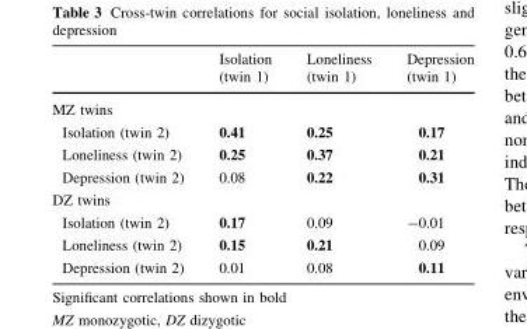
<table><thead><tr><td></td><td>Isolation (twin 1)</td><td>Loneliness (twin 1)</td><td>Depression (twin 1)</td></tr></thead><tbody><tr><td colspan="4">MZ twins</td></tr><tr><td>Isolation (twin 2)</td><td>0.41</td><td>0.25</td><td>0.17</td></tr><tr><td>Loneliness (twin 2)</td><td>0.25</td><td>0.37</td><td>0.21</td></tr><tr><td>Depression (twin 2)</td><td>0.08</td><td>0.22</td><td>0.31</td></tr><tr><td colspan="4">DZ twins</td></tr><tr><td>Isolation (twin 2)</td><td>0.17</td><td>0.09</td><td>-0.01</td></tr><tr><td>Loneliness (twin 2)</td><td>0.15</td><td>0.21</td><td>0.09</td></tr><tr><td>Depression (twin 2)</td><td>0.01</td><td>0.08</td><td>0.11</td></tr></tbody></table>